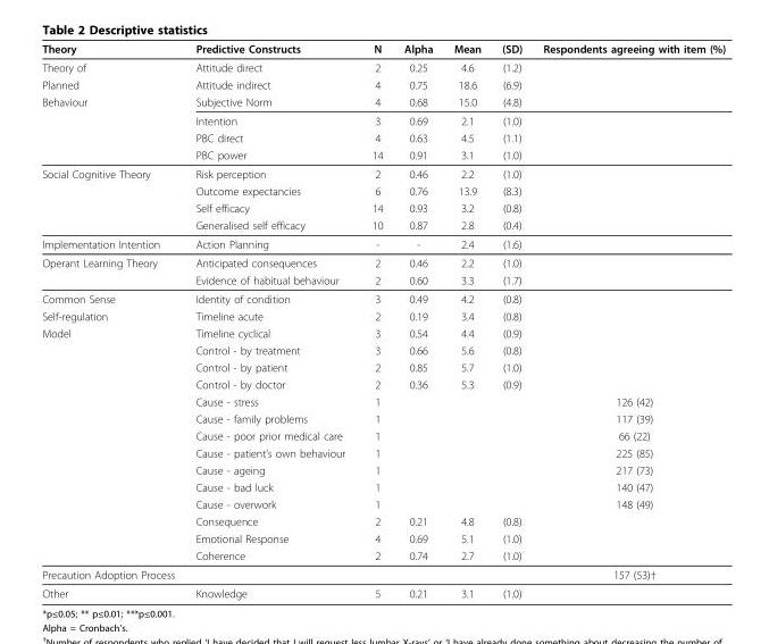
<table><thead><tr><td>Theory</td><td>Predictive Constructs</td><td>N</td><td>Alpha</td><td>Mean</td><td>(SD)</td><td>Respondents agreeing with item (%)</td></tr></thead><tbody><tr><td>Theory of</td><td>Attitude direct</td><td>2</td><td>0.25</td><td>4.6</td><td>(1.2)</td><td></td></tr><tr><td>Planned</td><td>Attitude indirect</td><td>4</td><td>0.75</td><td>18.6</td><td>(6.9)</td><td></td></tr><tr><td rowspan="4">Behaviour</td><td>Subjective Norm</td><td>4</td><td>0.68</td><td>15.0</td><td>(4.8)</td><td></td></tr><tr><td>Intention</td><td>3</td><td>0.69</td><td>2.1</td><td>(1.0)</td><td></td></tr><tr><td>PBC direct</td><td>4</td><td>0.63</td><td>4.5</td><td>(1.1)</td><td></td></tr><tr><td>PBC power</td><td>14</td><td>0.91</td><td>3.1</td><td>(1.0)</td><td></td></tr><tr><td rowspan="4">Social Cognitive Theory</td><td>Risk perception</td><td>2</td><td>0.46</td><td>2.2</td><td>(1.0)</td><td></td></tr><tr><td>Outcome expectancies</td><td>6</td><td>0.76</td><td>13.9</td><td>(8.3)</td><td></td></tr><tr><td>Self efficacy</td><td>14</td><td>0.93</td><td>3.2</td><td>(0.8)</td><td></td></tr><tr><td>Generalised self efficacy</td><td>10</td><td>0.87</td><td>2.8</td><td>(0.4)</td><td></td></tr><tr><td>Implementation Intention</td><td>Action Planning</td><td>-</td><td>-</td><td>2.4</td><td>(1.6)</td><td></td></tr><tr><td rowspan="2">Operant Learning Theory</td><td>Anticipated consequences</td><td>2</td><td>0.46</td><td>2.2</td><td>(1.0)</td><td></td></tr><tr><td>Evidence of habitual behaviour</td><td>2</td><td>0.60</td><td>3.3</td><td>(1.7)</td><td></td></tr><tr><td>Common Sense</td><td>Identity of condition</td><td>3</td><td>0.49</td><td>4.2</td><td>(0.8)</td><td></td></tr><tr><td>Self-regulation</td><td>Timeline acute</td><td>2</td><td>0.19</td><td>3.4</td><td>(0.8)</td><td></td></tr><tr><td rowspan="14">Model</td><td>Timeline cyclical</td><td>3</td><td>0.54</td><td>4.4</td><td>(0.9)</td><td></td></tr><tr><td>Control - by treatment</td><td>3</td><td>0.66</td><td>5.6</td><td>(0.8)</td><td></td></tr><tr><td>Control - by patient</td><td>2</td><td>0.85</td><td>5.7</td><td>(1.0)</td><td></td></tr><tr><td>Control - by doctor</td><td>2</td><td>0.36</td><td>5.3</td><td>(0.9)</td><td></td></tr><tr><td>Cause - stress</td><td>1</td><td></td><td></td><td></td><td>126 (42)</td></tr><tr><td>Cause - family problems</td><td>1</td><td></td><td></td><td></td><td>117 (39)</td></tr><tr><td>Cause - poor prior medical care</td><td>1</td><td></td><td></td><td></td><td>66 (22)</td></tr><tr><td>Cause - patient’s own behaviour</td><td>1</td><td></td><td></td><td></td><td>225 (85)</td></tr><tr><td>Cause - ageing</td><td>1</td><td></td><td></td><td></td><td>217 (73)</td></tr><tr><td>Cause - bad luck</td><td>1</td><td></td><td></td><td></td><td>140 (47)</td></tr><tr><td>Cause - overwork</td><td>1</td><td></td><td></td><td></td><td>148 (49)</td></tr><tr><td>Consequence</td><td>2</td><td>0.21</td><td>4.8</td><td>(0.8)</td><td></td></tr><tr><td>Emotional Response</td><td>4</td><td>0.69</td><td>5.1</td><td>(1.0)</td><td></td></tr><tr><td>Coherence</td><td>2</td><td>0.74</td><td>2.7</td><td>(1.0)</td><td></td></tr><tr><td>Precaution Adoption Process</td><td></td><td></td><td></td><td></td><td></td><td>157 (53)†</td></tr><tr><td>Other</td><td>Knowledge</td><td>5</td><td>0.21</td><td>3.1</td><td>(1.0)</td><td></td></tr></tbody></table>